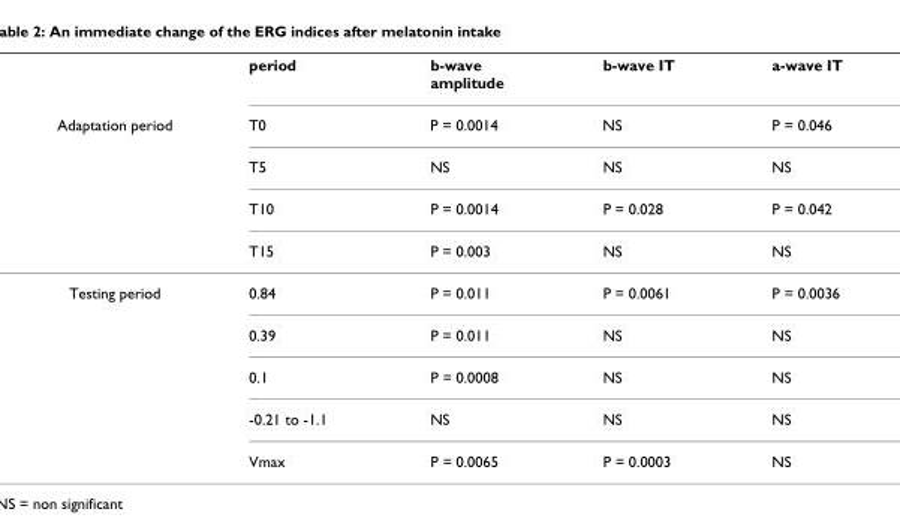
<table><thead><tr><td rowspan="5">Adaptation period</td><td rowspan="5">period T0 T5 T10 T15</td><td rowspan="5">b-wave amplitude P = 0.0014 NS P = 0.0014 P = 0.003</td><td rowspan="5">b-wave IT NS NS P = 0.028 NS</td><td rowspan="5">a-wave IT P = 0.046 NS P = 0.042 NS</td></tr><tr></tr><tr></tr><tr></tr><tr></tr></thead><tbody><tr><td rowspan="5">Testing period</td><td>0.84</td><td>P = 0.011</td><td>P = 0.0061</td><td>P = 0.0036</td></tr><tr><td>0.39</td><td>P = 0.011</td><td>NS</td><td>NS</td></tr><tr><td>0.1</td><td>P = 0.0008</td><td>NS</td><td>NS</td></tr><tr><td>-0.21 to -1.1</td><td>NS</td><td>NS</td><td>NS</td></tr><tr><td>Vmax</td><td>P = 0.0065</td><td>P = 0.0003</td><td>NS</td></tr></tbody></table>